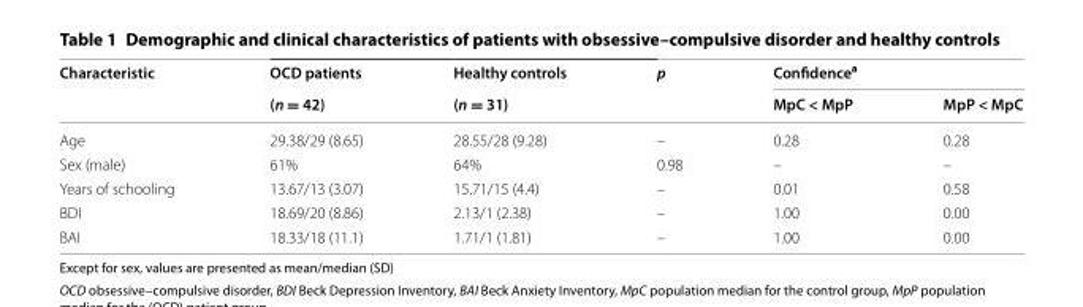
<table><thead><tr><td rowspan="2">Characteristic</td><td rowspan="2">OCD patients (n = 42)</td><td rowspan="2">Healthy controls (n = 31)</td><td rowspan="2">p</td><td colspan="2">Confidence<sup>a</sup></td></tr><tr><td>MpC &lt; MpP</td><td>MpP &lt; MpC</td></tr></thead><tbody><tr><td>Age</td><td>29.38/29 (8.65)</td><td>28.55/28 (9.28)</td><td>–</td><td>0.28</td><td>0.28</td></tr><tr><td>Sex (male)</td><td>61%</td><td>64%</td><td>0.98</td><td>–</td><td>–</td></tr><tr><td>Years of schooling</td><td>13.67/13 (3.07)</td><td>15.71/15 (4.4)</td><td>–</td><td>0.01</td><td>0.58</td></tr><tr><td>BDI</td><td>18.69/20 (8.86)</td><td>2.13/1 (2.38)</td><td>–</td><td>1.00</td><td>0.00</td></tr><tr><td>BAI</td><td>18.33/18 (11.1)</td><td>1.71/1 (1.81)</td><td>–</td><td>1.00</td><td>0.00</td></tr></tbody></table>